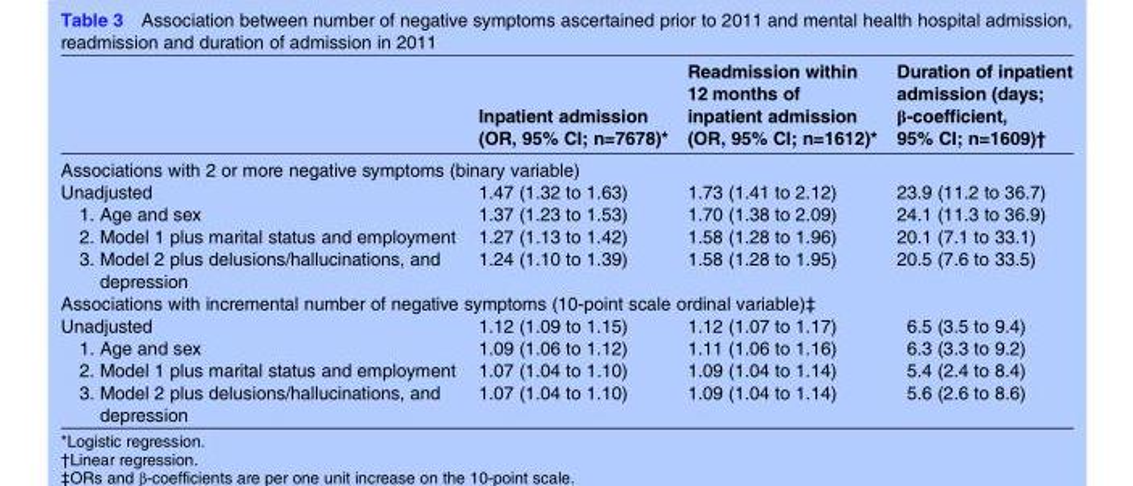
<table><thead><tr><td></td><td>Inpatient admission (OR, 95% CI; n=7678)*</td><td>Readmission within 12 months of inpatient admission (OR, 95% CI; n=1612)*</td><td>Duration of inpatient admission (days; β-coefficient, 95% CI; n=1609)†</td></tr></thead><tbody><tr><td colspan="4">Associations with 2 or more negative symptoms (binary variable)</td></tr><tr><td>Unadjusted</td><td>1.47 (1.32 to 1.63)</td><td>1.73 (1.41 to 2.12)</td><td>23.9 (11.2 to 36.7)</td></tr><tr><td>1. Age and sex</td><td>1.37 (1.23 to 1.53)</td><td>1.70 (1.38 to 2.09)</td><td>24.1 (11.3 to 36.9)</td></tr><tr><td>2. Model 1 plus marital status and employment</td><td>1.27 (1.13 to 1.42)</td><td>1.58 (1.28 to 1.96)</td><td>20.1 (7.1 to 33.1)</td></tr><tr><td>3. Model 2 plus delusions/hallucinations, and depression</td><td>1.24 (1.10 to 1.39)</td><td>1.58 (1.28 to 1.95)</td><td>20.5 (7.6 to 33.5)</td></tr><tr><td colspan="4">Associations with incremental number of negative symptoms (10-point scale ordinal variable)‡</td></tr><tr><td>Unadjusted</td><td>1.12 (1.09 to 1.15)</td><td>1.12 (1.07 to 1.17)</td><td>6.5 (3.5 to 9.4)</td></tr><tr><td>1. Age and sex</td><td>1.09 (1.06 to 1.12)</td><td>1.11 (1.06 to 1.16)</td><td>6.3 (3.3 to 9.2)</td></tr><tr><td>2. Model 1 plus marital status and employment</td><td>1.07 (1.04 to 1.10)</td><td>1.09 (1.04 to 1.14)</td><td>5.4 (2.4 to 8.4)</td></tr><tr><td>3. Model 2 plus delusions/hallucinations, and depression</td><td>1.07 (1.04 to 1.10)</td><td>1.09 (1.04 to 1.14)</td><td>5.6 (2.6 to 8.6)</td></tr></tbody></table>